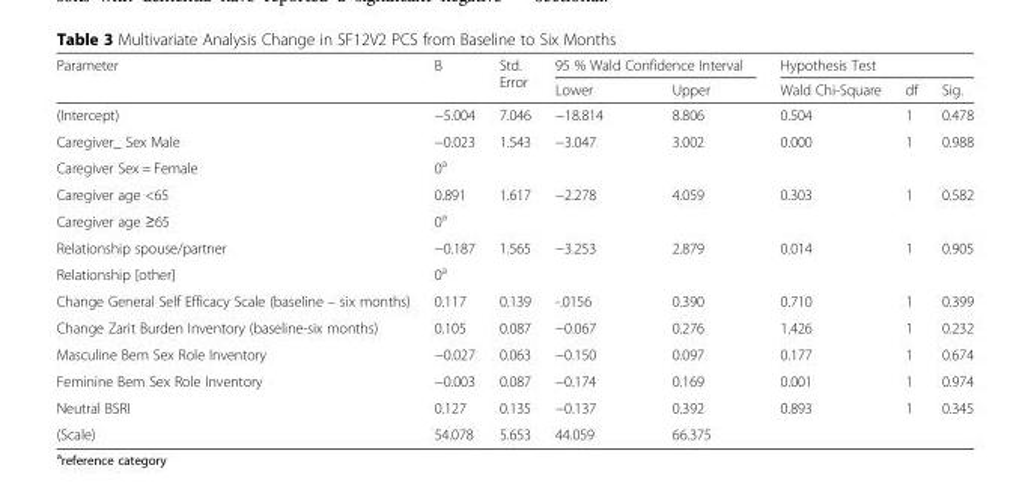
<table><thead><tr><td rowspan="2">Parameter</td><td rowspan="2">B</td><td rowspan="2">Std. Error</td><td colspan="2">95 % Wald Confidence Interval</td><td colspan="3">Hypothesis Test</td></tr><tr><td>Lower</td><td>Upper</td><td>Wald Chi-Square</td><td>df</td><td>Sig.</td></tr></thead><tbody><tr><td>(Intercept)</td><td>−5.004</td><td>7.046</td><td>−18.814</td><td>8.806</td><td>0.504</td><td>1</td><td>0.478</td></tr><tr><td>Caregiver_ Sex Male</td><td>−0.023</td><td>1.543</td><td>−3.047</td><td>3.002</td><td>0.000</td><td>1</td><td>0.988</td></tr><tr><td>Caregiver Sex = Female</td><td>0<sup>a</sup></td><td></td><td></td><td></td><td></td><td></td><td></td></tr><tr><td>Caregiver age &lt;65</td><td>0.891</td><td>1.617</td><td>−2.278</td><td>4.059</td><td>0.303</td><td>1</td><td>0.582</td></tr><tr><td>Caregiver age ≥65</td><td>0<sup>a</sup></td><td></td><td></td><td></td><td></td><td></td><td></td></tr><tr><td>Relationship spouse/partner</td><td>−0.187</td><td>1.565</td><td>−3.253</td><td>2.879</td><td>0.014</td><td>1</td><td>0.905</td></tr><tr><td>Relationship [other]</td><td>0<sup>a</sup></td><td></td><td></td><td></td><td></td><td></td><td></td></tr><tr><td>Change General Self Efficacy Scale (baseline – six months)</td><td>0.117</td><td>0.139</td><td>-.0156</td><td>0.390</td><td>0.710</td><td>1</td><td>0.399</td></tr><tr><td>Change Zarit Burden Inventory (baseline-six months)</td><td>0.105</td><td>0.087</td><td>−0.067</td><td>0.276</td><td>1.426</td><td>1</td><td>0.232</td></tr><tr><td>Masculine Bem Sex Role Inventory</td><td>−0.027</td><td>0.063</td><td>−0.150</td><td>0.097</td><td>0.177</td><td>1</td><td>0.674</td></tr><tr><td>Feminine Bem Sex Role Inventory</td><td>−0.003</td><td>0.087</td><td>−0.174</td><td>0.169</td><td>0.001</td><td>1</td><td>0.974</td></tr><tr><td>Neutral BSRI</td><td>0.127</td><td>0.135</td><td>−0.137</td><td>0.392</td><td>0.893</td><td>1</td><td>0.345</td></tr><tr><td>(Scale)</td><td>54.078</td><td>5.653</td><td>44.059</td><td>66.375</td><td></td><td></td><td></td></tr></tbody></table>